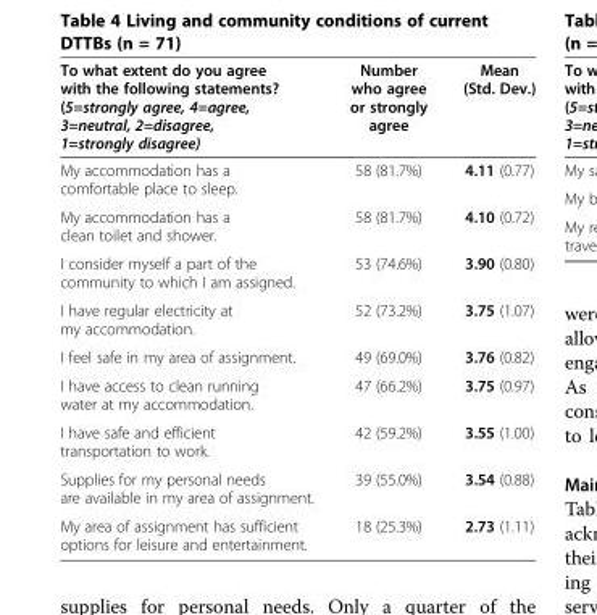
<table><thead><tr><td>To what extent do you agree with the following statements? (5=strongly agree, 4=agree, 3=neutral, 2=disagree, 1=strongly disagree)</td><td>Number who agree or strongly agree</td><td>Mean (Std. Dev.)</td></tr></thead><tbody><tr><td>My accommodation has a comfortable place to sleep.</td><td>58 (81.7%)</td><td>4.11 (0.77)</td></tr><tr><td>My accommodation has a clean toilet and shower.</td><td>58 (81.7%)</td><td>4.10 (0.72)</td></tr><tr><td>I consider myself a part of the community to which I am assigned.</td><td>53 (74.6%)</td><td>3.90 (0.80)</td></tr><tr><td>I have regular electricity at my accommodation.</td><td>52 (73.2%)</td><td>3.75 (1.07)</td></tr><tr><td>I feel safe in my area of assignment.</td><td>49 (69.0%)</td><td>3.76 (0.82)</td></tr><tr><td>I have access to clean running water at my accommodation.</td><td>47 (66.2%)</td><td>3.75 (0.97)</td></tr><tr><td>I have safe and efficient transportation to work.</td><td>42 (59.2%)</td><td>3.55 (1.00)</td></tr><tr><td>Supplies for my personal needs are available in my area of assignment.</td><td>39 (55.0%)</td><td>3.54 (0.88)</td></tr><tr><td>My area of assignment has sufficient options for leisure and entertainment.</td><td>18 (25.3%)</td><td>2.73 (1.11)</td></tr></tbody></table>